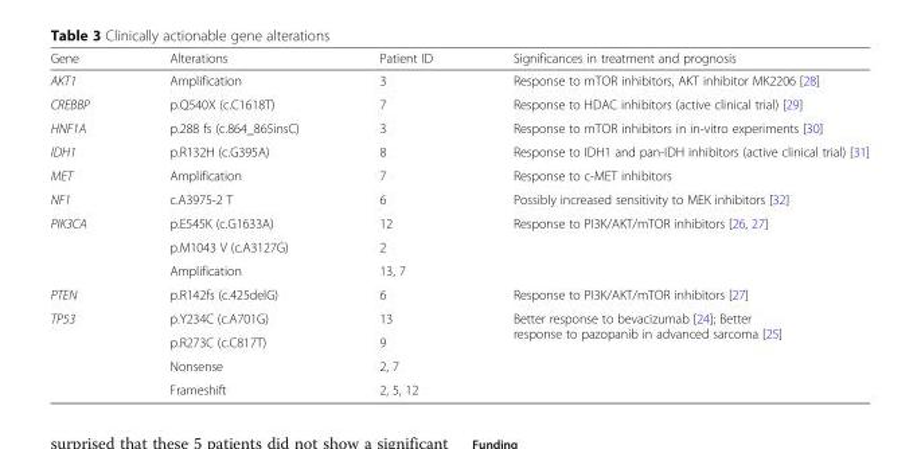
<table><thead><tr><td>Gene</td><td>Alterations</td><td>Patient ID</td><td>Significances in treatment and prognosis</td></tr></thead><tbody><tr><td>AKT1</td><td>Amplification</td><td>3</td><td>Response to mTOR inhibitors, AKT inhibitor MK2206 [28]</td></tr><tr><td>CREBBP</td><td>p.Q540X (c.C1618T)</td><td>7</td><td>Response to HDAC inhibitors (active clinical trial) [29]</td></tr><tr><td>HNF1A</td><td>p.288 fs (c.864_865insC)</td><td>3</td><td>Response to mTOR inhibitors in in-vitro experiments [30]</td></tr><tr><td>IDH1</td><td>p.R132H (c.G395A)</td><td>8</td><td>Response to IDH1 and pan-IDH inhibitors (active clinical trial) [31]</td></tr><tr><td>MET</td><td>Amplification</td><td>7</td><td>Response to c-MET inhibitors</td></tr><tr><td>NF1</td><td>c.A3975-2 T</td><td>6</td><td>Possibly increased sensitivity to MEK inhibitors [32]</td></tr><tr><td rowspan="3">PIK3CA</td><td>p.E545K (c.G1633A)</td><td>12</td><td rowspan="3">Response to PI3K/AKT/mTOR inhibitors [26, 27]</td></tr><tr><td>p.M1043 V (c.A3127G)</td><td>2</td></tr><tr><td>Amplification</td><td>13, 7</td></tr><tr><td>PTEN</td><td>p.R142fs (c.425delG)</td><td>6</td><td>Response to PI3K/AKT/mTOR inhibitors [27]</td></tr><tr><td rowspan="4">TP53</td><td>p.Y234C (c.A701G)</td><td>13</td><td rowspan="4">Better response to bevacizumab [24]; Better response to pazopanib in advanced sarcoma [25]</td></tr><tr><td>p.R273C (c.C817T)</td><td>9</td></tr><tr><td>Nonsense</td><td>2, 7</td></tr><tr><td>Frameshift</td><td>2, 5, 12</td></tr></tbody></table>